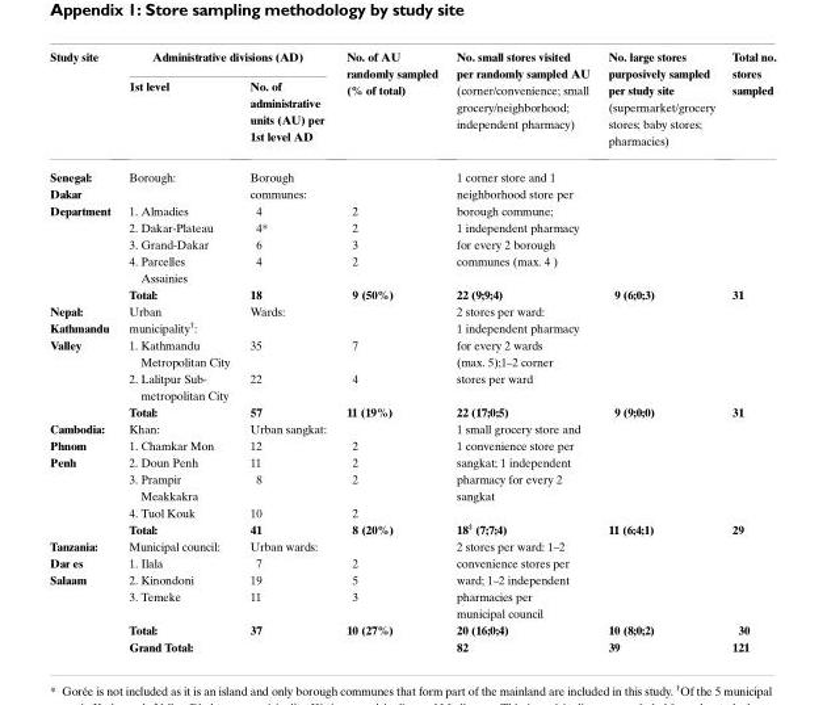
<table><thead><tr><td rowspan="2">Study site</td><td colspan="2">Administrative divisions (AD)</td><td rowspan="2">No. of AU randomly sampled (% of total)</td><td rowspan="2">No. small stores visited per randomly sampled AU (corner/convenience; small grocery/neighborhood; independent pharmacy)</td><td rowspan="2">No. large stores purposively sampled per study site (supermarket/grocery stores; baby stores; pharmacies)</td><td rowspan="2">Total no. stores sampled</td></tr><tr><td>1st level</td><td>No. of administrative units (AU) per 1st level AD</td></tr></thead><tbody><tr><td rowspan="6">Senegal: Dakar Department</td><td>Borough:</td><td>Borough communes:</td><td></td><td rowspan="5">1 corner store and 1 neighborhood store per borough commune; 1 independent pharmacy for every 2 borough communes (max. 4 )</td><td rowspan="5"></td><td rowspan="5"></td></tr><tr><td>1. Almadies</td><td>4</td><td>2</td></tr><tr><td>2. Dakar-Plateau</td><td>4*</td><td>2</td></tr><tr><td>3. Grand-Dakar</td><td>6</td><td>3</td></tr><tr><td>4. Parcelles Assainies</td><td>4</td><td>2</td></tr><tr><td>Total:</td><td>18</td><td>9 (50%)</td><td>22 (9;9;4)</td><td>9 (6;0;3)</td><td>31</td></tr><tr><td rowspan="4">Nepal: Kathmandu Valley</td><td>Urban municipality†:</td><td>Wards:</td><td></td><td rowspan="3">2 stores per ward: 1 independent pharmacy for every 2 wards (max. 5);1–2 corner stores per ward</td><td rowspan="3"></td><td rowspan="3"></td></tr><tr><td>1. Kathmandu Metropolitan City</td><td>35</td><td>7</td></tr><tr><td>2. Lalitpur Sub- metropolitan City</td><td>22</td><td>4</td></tr><tr><td>Total:</td><td>57</td><td>11 (19%)</td><td>22 (17;0;5)</td><td>9 (9;0;0)</td><td>31</td></tr><tr><td rowspan="6">Cambodia: Phnom Penh</td><td>Khan:</td><td>Urban sangkat:</td><td></td><td rowspan="5">1 small grocery store and 1 convenience store per sangkat; 1 independent pharmacy for every 2 sangkat</td><td rowspan="5"></td><td rowspan="5"></td></tr><tr><td>1. Chamkar Mon</td><td>12</td><td>2</td></tr><tr><td>2. Doun Penh</td><td>11</td><td>2</td></tr><tr><td>3. Prampir Meakkakra</td><td>8</td><td>2</td></tr><tr><td>4. Tuol Kouk</td><td>10</td><td>2</td></tr><tr><td>Total:</td><td>41</td><td>8 (20%)</td><td>18‡ (7;7;4)</td><td>11 (6;4;1)</td><td>29</td></tr><tr><td rowspan="6">Tanzania: Dar es Salaam</td><td>Municipal council:</td><td>Urban wards:</td><td></td><td rowspan="4">2 stores per ward: 1–2 convenience stores per ward; 1–2 independent pharmacies per municipal council</td><td rowspan="4"></td><td rowspan="4"></td></tr><tr><td>1. Ilala</td><td>7</td><td>2</td></tr><tr><td>2. Kinondoni</td><td>19</td><td>5</td></tr><tr><td>3. Temeke</td><td>11</td><td>3</td></tr><tr><td>Total:</td><td>37</td><td>10 (27%)</td><td>20 (16;0;4)</td><td>10 (8;0;2)</td><td>30</td></tr><tr><td>Grand Total:</td><td></td><td></td><td>82</td><td>39</td><td>121</td></tr></tbody></table>